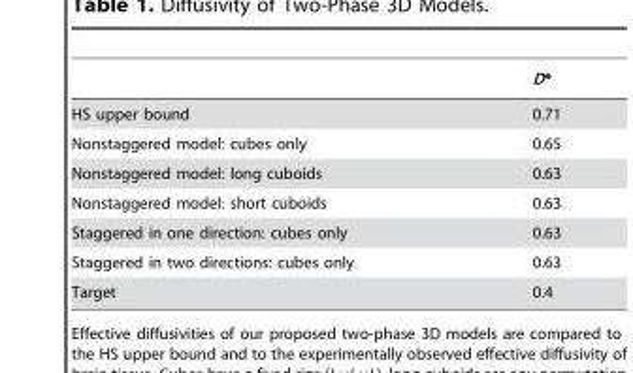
<table><thead><tr><td></td><td>D*</td></tr></thead><tbody><tr><td>HS upper bound</td><td>0.71</td></tr><tr><td>Nonstaggered model: cubes only</td><td>0.65</td></tr><tr><td>Nonstaggered model: long cuboids</td><td>0.63</td></tr><tr><td>Nonstaggered model: short cuboids</td><td>0.63</td></tr><tr><td>Staggered in one direction: cubes only</td><td>0.63</td></tr><tr><td>Staggered in two directions: cubes only</td><td>0.63</td></tr><tr><td>Target</td><td>0.4</td></tr></tbody></table>